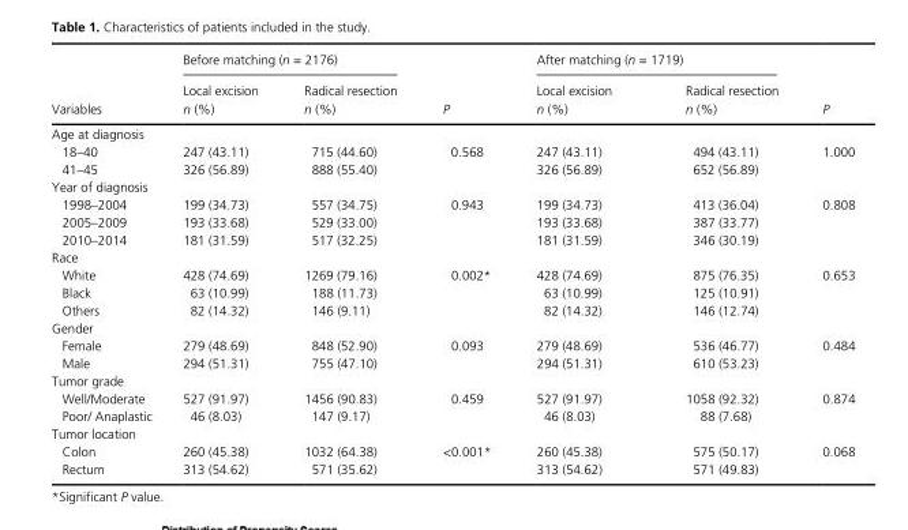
<table><thead><tr><td rowspan="2">Variables</td><td colspan="2">Before matching (n = 2176)</td><td rowspan="2">P</td><td colspan="2">After matching (n = 1719)</td><td rowspan="2">P</td></tr><tr><td>Local excision n (%)</td><td>Radical resection n (%)</td><td>Local excision n (%)</td><td>Radical resection n (%)</td></tr></thead><tbody><tr><td colspan="7">Age at diagnosis</td></tr><tr><td>18–40</td><td>247 (43.11)</td><td>715 (44.60)</td><td rowspan="2">0.568</td><td>247 (43.11)</td><td>494 (43.11)</td><td rowspan="2">1.000</td></tr><tr><td>41–45</td><td>326 (56.89)</td><td>888 (55.40)</td><td>326 (56.89)</td><td>652 (56.89)</td></tr><tr><td colspan="7">Year of diagnosis</td></tr><tr><td>1998–2004</td><td>199 (34.73)</td><td>557 (34.75)</td><td rowspan="3">0.943</td><td>199 (34.73)</td><td>413 (36.04)</td><td rowspan="3">0.808</td></tr><tr><td>2005–2009</td><td>193 (33.68)</td><td>529 (33.00)</td><td>193 (33.68)</td><td>387 (33.77)</td></tr><tr><td>2010–2014</td><td>181 (31.59)</td><td>517 (32.25)</td><td>181 (31.59)</td><td>346 (30.19)</td></tr><tr><td colspan="7">Race</td></tr><tr><td>White</td><td>428 (74.69)</td><td>1269 (79.16)</td><td rowspan="3">0.002*</td><td>428 (74.69)</td><td>875 (76.35)</td><td rowspan="3">0.653</td></tr><tr><td>Black</td><td>63 (10.99)</td><td>188 (11.73)</td><td>63 (10.99)</td><td>125 (10.91)</td></tr><tr><td>Others</td><td>82 (14.32)</td><td>146 (9.11)</td><td>82 (14.32)</td><td>146 (12.74)</td></tr><tr><td colspan="7">Gender</td></tr><tr><td>Female</td><td>279 (48.69)</td><td>848 (52.90)</td><td rowspan="2">0.093</td><td>279 (48.69)</td><td>536 (46.77)</td><td rowspan="2">0.484</td></tr><tr><td>Male</td><td>294 (51.31)</td><td>755 (47.10)</td><td>294 (51.31)</td><td>610 (53.23)</td></tr><tr><td colspan="7">Tumor grade</td></tr><tr><td>Well/Moderate</td><td>527 (91.97)</td><td>1456 (90.83)</td><td rowspan="2">0.459</td><td>527 (91.97)</td><td>1058 (92.32)</td><td rowspan="2">0.874</td></tr><tr><td>Poor/ Anaplastic</td><td>46 (8.03)</td><td>147 (9.17)</td><td>46 (8.03)</td><td>88 (7.68)</td></tr><tr><td colspan="7">Tumor location</td></tr><tr><td>Colon</td><td>260 (45.38)</td><td>1032 (64.38)</td><td rowspan="2">&lt;0.001*</td><td>260 (45.38)</td><td>575 (50.17)</td><td rowspan="2">0.068</td></tr><tr><td>Rectum</td><td>313 (54.62)</td><td>571 (35.62)</td><td>313 (54.62)</td><td>571 (49.83)</td></tr></tbody></table>